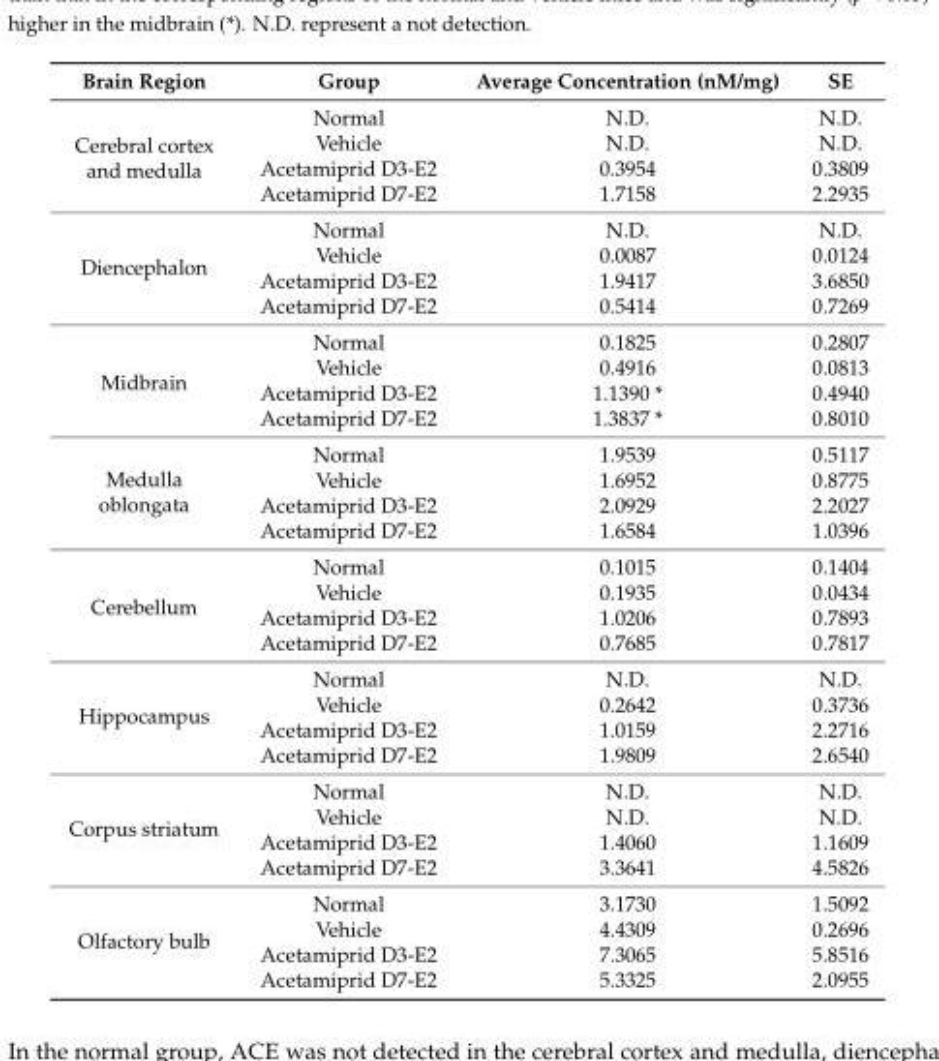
<table><thead><tr><td>Brain Region</td><td>Group</td><td>Average Concentration (nM/mg)</td><td>SE</td></tr></thead><tbody><tr><td rowspan="4">Cerebral cortex and medulla</td><td>Normal</td><td>N.D.</td><td>N.D.</td></tr><tr><td>Vehicle</td><td>N.D.</td><td>N.D.</td></tr><tr><td>Acetamiprid D3-E2</td><td>0.3954</td><td>0.3809</td></tr><tr><td>Acetamiprid D7-E2</td><td>1.7158</td><td>2.2935</td></tr><tr><td rowspan="4">Diencephalon</td><td>Normal</td><td>N.D.</td><td>N.D.</td></tr><tr><td>Vehicle</td><td>0.0087</td><td>0.0124</td></tr><tr><td>Acetamiprid D3-E2</td><td>1.9417</td><td>3.6850</td></tr><tr><td>Acetamiprid D7-E2</td><td>0.5414</td><td>0.7269</td></tr><tr><td rowspan="4">Midbrain</td><td>Normal</td><td>0.1825</td><td>0.2807</td></tr><tr><td>Vehicle</td><td>0.4916</td><td>0.0813</td></tr><tr><td>Acetamiprid D3-E2</td><td>1.1390 *</td><td>0.4940</td></tr><tr><td>Acetamiprid D7-E2</td><td>1.3837 *</td><td>0.8010</td></tr><tr><td rowspan="4">Medulla oblongata</td><td>Normal</td><td>1.9539</td><td>0.5117</td></tr><tr><td>Vehicle</td><td>1.6952</td><td>0.8775</td></tr><tr><td>Acetamiprid D3-E2</td><td>2.0929</td><td>2.2027</td></tr><tr><td>Acetamiprid D7-E2</td><td>1.6584</td><td>1.0396</td></tr><tr><td rowspan="4">Cerebellum</td><td>Normal</td><td>0.1015</td><td>0.1404</td></tr><tr><td>Vehicle</td><td>0.1935</td><td>0.0434</td></tr><tr><td>Acetamiprid D3-E2</td><td>1.0206</td><td>0.7893</td></tr><tr><td>Acetamiprid D7-E2</td><td>0.7685</td><td>0.7817</td></tr><tr><td rowspan="4">Hippocampus</td><td>Normal</td><td>N.D.</td><td>N.D.</td></tr><tr><td>Vehicle</td><td>0.2642</td><td>0.3736</td></tr><tr><td>Acetamiprid D3-E2</td><td>1.0159</td><td>2.2716</td></tr><tr><td>Acetamiprid D7-E2</td><td>1.9809</td><td>2.6540</td></tr><tr><td rowspan="4">Corpus striatum</td><td>Normal</td><td>N.D.</td><td>N.D.</td></tr><tr><td>Vehicle</td><td>N.D.</td><td>N.D.</td></tr><tr><td>Acetamiprid D3-E2</td><td>1.4060</td><td>1.1609</td></tr><tr><td>Acetamiprid D7-E2</td><td>3.3641</td><td>4.5826</td></tr><tr><td rowspan="4">Olfactory bulb</td><td>Normal</td><td>3.1730</td><td>1.5092</td></tr><tr><td>Vehicle</td><td>4.4309</td><td>0.2696</td></tr><tr><td>Acetamiprid D3-E2</td><td>7.3065</td><td>5.8516</td></tr><tr><td>Acetamiprid D7-E2</td><td>5.3325</td><td>2.0955</td></tr></tbody></table>